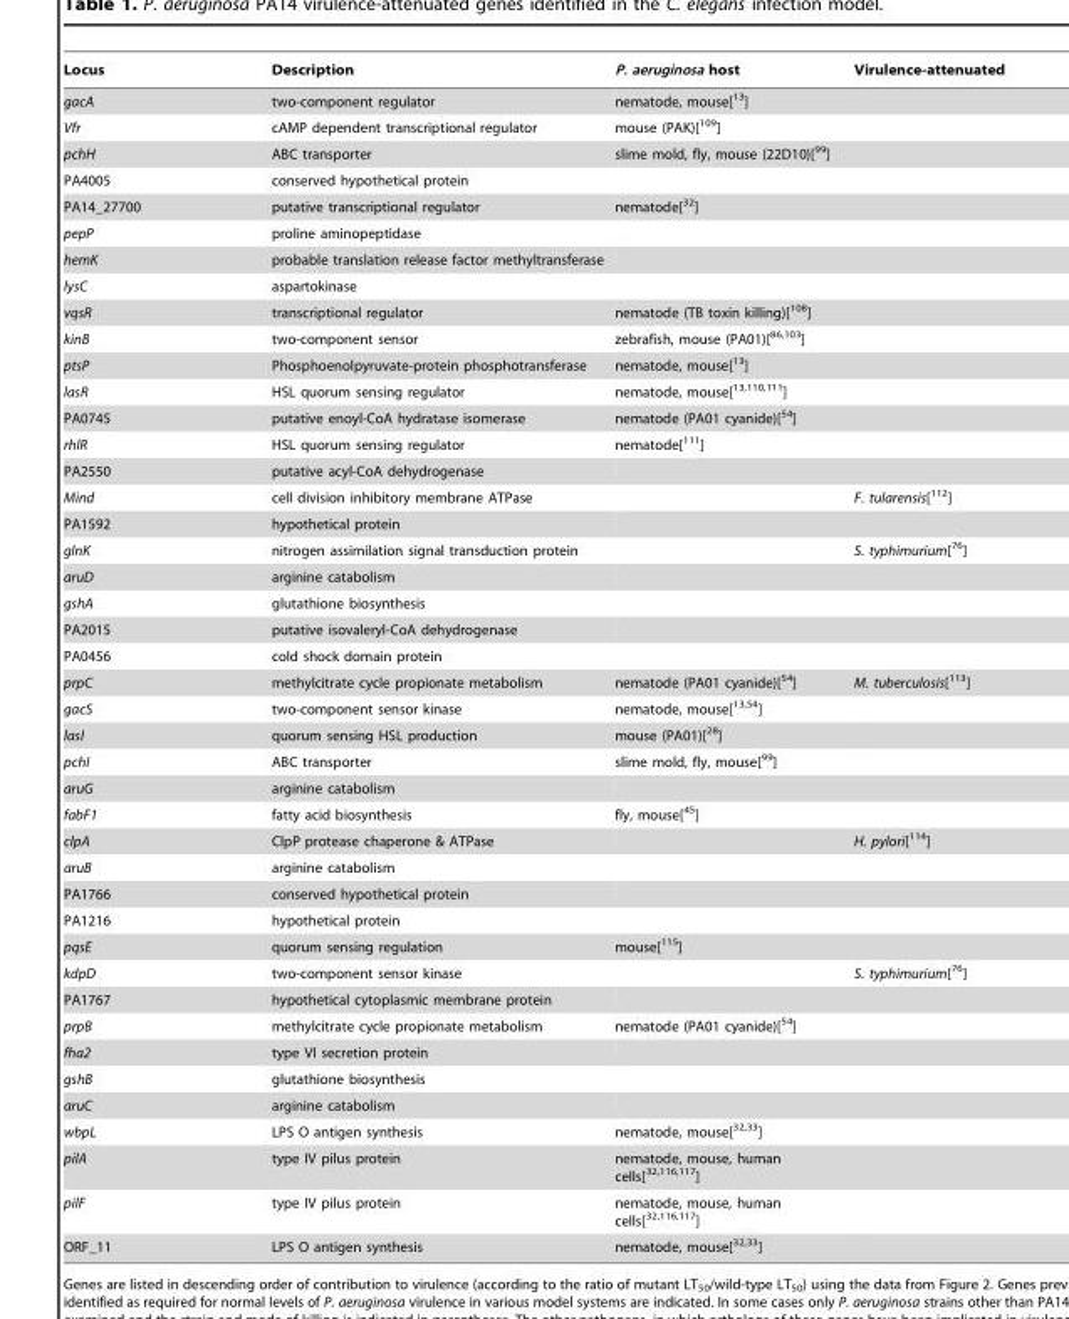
<table><thead><tr><td>Locus</td><td>Description</td><td>P. aeruginosa host</td><td>Virulence-attenuated</td></tr></thead><tbody><tr><td>gacA</td><td>two-component regulator</td><td>nematode, mouse[<sup>13</sup>]</td><td></td></tr><tr><td>Vfr</td><td>cAMP dependent transcriptional regulator</td><td>mouse (PAK)[<sup>109</sup>]</td><td></td></tr><tr><td>pchH</td><td>ABC transporter</td><td>slime mold, fly, mouse (22D10)[<sup>99</sup>]</td><td></td></tr><tr><td>PA4005</td><td>conserved hypothetical protein</td><td></td><td></td></tr><tr><td>PA14_27700</td><td>putative transcriptional regulator</td><td>nematode[<sup>32</sup>]</td><td></td></tr><tr><td>pepP</td><td>proline aminopeptidase</td><td></td><td></td></tr><tr><td>hemK</td><td>probable translation release factor methyltransferase</td><td></td><td></td></tr><tr><td>lysC</td><td>aspartokinase</td><td></td><td></td></tr><tr><td>vqsR</td><td>transcriptional regulator</td><td>nematode (TB toxin killing)[<sup>108</sup>]</td><td></td></tr><tr><td>kinB</td><td>two-component sensor</td><td>zebrafish, mouse (PA01)[86,103]</td><td></td></tr><tr><td>ptsP</td><td>Phosphoenolpyruvate-protein phosphotransferase</td><td>nematode, mouse[<sup>13</sup>]</td><td></td></tr><tr><td>lasR</td><td>HSL quorum sensing regulator</td><td>nematode, mouse[13,110,111]</td><td></td></tr><tr><td>PA0745</td><td>putative enoyl-CoA hydratase isomerase</td><td>nematode (PA01 cyanide)[<sup>54</sup>]</td><td></td></tr><tr><td>rhlR</td><td>HSL quorum sensing regulator</td><td>nematode[<sup>111</sup>]</td><td></td></tr><tr><td>PA2550</td><td>putative acyl-CoA dehydrogenase</td><td></td><td></td></tr><tr><td>Mind</td><td>cell division inhibitory membrane ATPase</td><td></td><td>F. tularensis[<sup>112</sup>]</td></tr><tr><td>PA1592</td><td>hypothetical protein</td><td></td><td></td></tr><tr><td>glnK</td><td>nitrogen assimilation signal transduction protein</td><td></td><td>S. typhimurium[<sup>76</sup>]</td></tr><tr><td>aruD</td><td>arginine catabolism</td><td></td><td></td></tr><tr><td>gshA</td><td>glutathione biosynthesis</td><td></td><td></td></tr><tr><td>PA2015</td><td>putative isovaleryl-CoA dehydrogenase</td><td></td><td></td></tr><tr><td>PA0456</td><td>cold shock domain protein</td><td></td><td></td></tr><tr><td>prpC</td><td>methylcitrate cycle propionate metabolism</td><td>nematode (PA01 cyanide)[<sup>54</sup>]</td><td>M. tuberculosis[<sup>113</sup>]</td></tr><tr><td>gacS</td><td>two-component sensor kinase</td><td>nematode, mouse[13,54]</td><td></td></tr><tr><td>lasI</td><td>quorum sensing HSL production</td><td>mouse (PA01)[<sup>28</sup>]</td><td></td></tr><tr><td>pchI</td><td>ABC transporter</td><td>slime mold, fly, mouse[<sup>99</sup>]</td><td></td></tr><tr><td>aruG</td><td>arginine catabolism</td><td></td><td></td></tr><tr><td>fabF1</td><td>fatty acid biosynthesis</td><td>fly, mouse[<sup>45</sup>]</td><td></td></tr><tr><td>clpA</td><td>ClpP protease chaperone &amp; ATPase</td><td></td><td>H. pylori[<sup>114</sup>]</td></tr><tr><td>aruB</td><td>arginine catabolism</td><td></td><td></td></tr><tr><td>PA1766</td><td>conserved hypothetical protein</td><td></td><td></td></tr><tr><td>PA1216</td><td>hypothetical protein</td><td></td><td></td></tr><tr><td>pqsE</td><td>quorum sensing regulation</td><td>mouse[<sup>115</sup>]</td><td></td></tr><tr><td>kdpD</td><td>two-component sensor kinase</td><td></td><td>S. typhimurium[<sup>76</sup>]</td></tr><tr><td>PA1767</td><td>hypothetical cytoplasmic membrane protein</td><td></td><td></td></tr><tr><td>prpB</td><td>methylcitrate cycle propionate metabolism</td><td>nematode (PA01 cyanide)[<sup>54</sup>]</td><td></td></tr><tr><td>fha2</td><td>type VI secretion protein</td><td></td><td></td></tr><tr><td>gshB</td><td>glutathione biosynthesis</td><td></td><td></td></tr><tr><td>aruC</td><td>arginine catabolism</td><td></td><td></td></tr><tr><td>wbpL</td><td>LPS O antigen synthesis</td><td>nematode, mouse[32,33]</td><td></td></tr><tr><td>pilA</td><td>type IV pilus protein</td><td>nematode, mouse, human cells[32,116,117]</td><td></td></tr><tr><td>pilF</td><td>type IV pilus protein</td><td>nematode, mouse, human cells[32,116,117]</td><td></td></tr><tr><td>ORF_11</td><td>LPS O antigen synthesis</td><td>nematode, mouse[32,33]</td><td></td></tr></tbody></table>